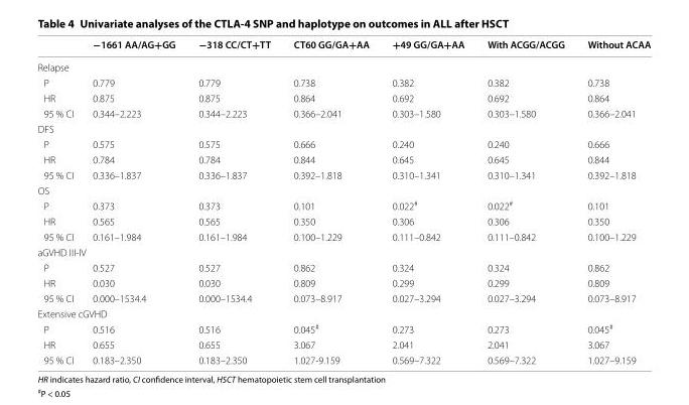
<table><thead><tr><td></td><td>−1661 AA/AG+GG</td><td>−318 CC/CT+TT</td><td>CT60 GG/GA+AA</td><td>+49 GG/GA+AA</td><td>With ACGG/ACGG</td><td>Without ACAA</td></tr></thead><tbody><tr><td colspan="7">Relapse</td></tr><tr><td>P</td><td>0.779</td><td>0.779</td><td>0.738</td><td>0.382</td><td>0.382</td><td>0.738</td></tr><tr><td>HR</td><td>0.875</td><td>0.875</td><td>0.864</td><td>0.692</td><td>0.692</td><td>0.864</td></tr><tr><td>95 % CI</td><td>0.344–2.223</td><td>0.344–2.223</td><td>0.366–2.041</td><td>0.303–1.580</td><td>0.303–1.580</td><td>0.366–2.041</td></tr><tr><td colspan="7">DFS</td></tr><tr><td>P</td><td>0.575</td><td>0.575</td><td>0.666</td><td>0.240</td><td>0.240</td><td>0.666</td></tr><tr><td>HR</td><td>0.784</td><td>0.784</td><td>0.844</td><td>0.645</td><td>0.645</td><td>0.844</td></tr><tr><td>95 % CI</td><td>0.336–1.837</td><td>0.336–1.837</td><td>0.392–1.818</td><td>0.310–1.341</td><td>0.310–1.341</td><td>0.392–1.818</td></tr><tr><td colspan="7">OS</td></tr><tr><td>P</td><td>0.373</td><td>0.373</td><td>0.101</td><td>0.022<sup>#</sup></td><td>0.022<sup>#</sup></td><td>0.101</td></tr><tr><td>HR</td><td>0.565</td><td>0.565</td><td>0.350</td><td>0.306</td><td>0.306</td><td>0.350</td></tr><tr><td>95 % CI</td><td>0.161–1.984</td><td>0.161–1.984</td><td>0.100–1.229</td><td>0.111–0.842</td><td>0.111–0.842</td><td>0.100–1.229</td></tr><tr><td colspan="7">aGVHD III‑IV</td></tr><tr><td>P</td><td>0.527</td><td>0.527</td><td>0.862</td><td>0.324</td><td>0.324</td><td>0.862</td></tr><tr><td>HR</td><td>0.030</td><td>0.030</td><td>0.809</td><td>0.299</td><td>0.299</td><td>0.809</td></tr><tr><td>95 % CI</td><td>0.000–1534.4</td><td>0.000–1534.4</td><td>0.073–8.917</td><td>0.027–3.294</td><td>0.027–3.294</td><td>0.073–8.917</td></tr><tr><td colspan="7">Extensive cGVHD</td></tr><tr><td>P</td><td>0.516</td><td>0.516</td><td>0.045<sup>#</sup></td><td>0.273</td><td>0.273</td><td>0.045<sup>#</sup></td></tr><tr><td>HR</td><td>0.655</td><td>0.655</td><td>3.067</td><td>2.041</td><td>2.041</td><td>3.067</td></tr><tr><td>95 % CI</td><td>0.183–2.350</td><td>0.183–2.350</td><td>1.027‑9.159</td><td>0.569–7.322</td><td>0.569–7.322</td><td>1.027–9.159</td></tr></tbody></table>